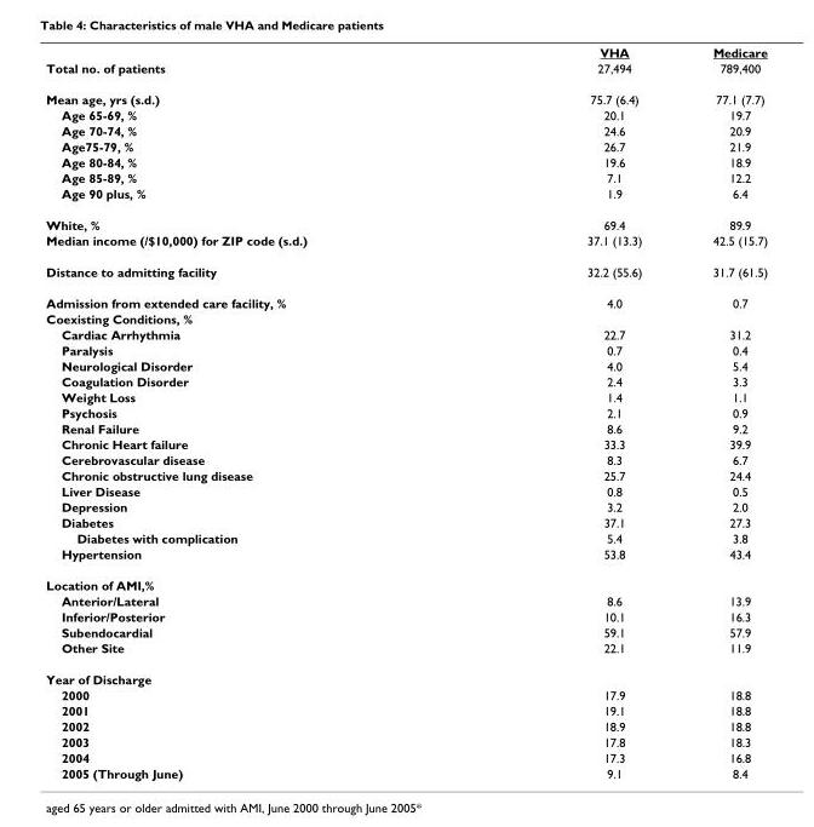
<table><thead><tr><td></td><td>VHA</td><td>Medicare</td></tr></thead><tbody><tr><td>Total no. of patients</td><td>27,494</td><td>789,400</td></tr><tr><td>Mean age, yrs (s.d.)</td><td>75.7 (6.4)</td><td>77.1 (7.7)</td></tr><tr><td>Age 65-69, %</td><td>20.1</td><td>19.7</td></tr><tr><td>Age 70-74, %</td><td>24.6</td><td>20.9</td></tr><tr><td>Age75-79, %</td><td>26.7</td><td>21.9</td></tr><tr><td>Age 80-84, %</td><td>19.6</td><td>18.9</td></tr><tr><td>Age 85-89, %</td><td>7.1</td><td>12.2</td></tr><tr><td>Age 90 plus, %</td><td>1.9</td><td>6.4</td></tr><tr><td>White, %</td><td>69.4</td><td>89.9</td></tr><tr><td>Median income (/$10,000) for ZIP code (s.d.)</td><td>37.1 (13.3)</td><td>42.5 (15.7)</td></tr><tr><td>Distance to admitting facility</td><td>32.2 (55.6)</td><td>31.7 (61.5)</td></tr><tr><td>Admission from extended care facility, %</td><td>4.0</td><td>0.7</td></tr><tr><td colspan="3">Coexisting Conditions, %</td></tr><tr><td>Cardiac Arrhythmia</td><td>22.7</td><td>31.2</td></tr><tr><td>Paralysis</td><td>0.7</td><td>0.4</td></tr><tr><td>Neurological Disorder</td><td>4.0</td><td>5.4</td></tr><tr><td>Coagulation Disorder</td><td>2.4</td><td>3.3</td></tr><tr><td>Weight Loss</td><td>1.4</td><td>1.1</td></tr><tr><td>Psychosis</td><td>2.1</td><td>0.9</td></tr><tr><td>Renal Failure</td><td>8.6</td><td>9.2</td></tr><tr><td>Chronic Heart failure</td><td>33.3</td><td>39.9</td></tr><tr><td>Cerebrovascular disease</td><td>8.3</td><td>6.7</td></tr><tr><td>Chronic obstructive lung disease</td><td>25.7</td><td>24.4</td></tr><tr><td>Liver Disease</td><td>0.8</td><td>0.5</td></tr><tr><td>Depression</td><td>3.2</td><td>2.0</td></tr><tr><td>Diabetes</td><td>37.1</td><td>27.3</td></tr><tr><td>Diabetes with complication</td><td>5.4</td><td>3.8</td></tr><tr><td>Hypertension</td><td>53.8</td><td>43.4</td></tr><tr><td colspan="3">Location of AMI,%</td></tr><tr><td>Anterior/Lateral</td><td>8.6</td><td>13.9</td></tr><tr><td>Inferior/Posterior</td><td>10.1</td><td>16.3</td></tr><tr><td>Subendocardial</td><td>59.1</td><td>57.9</td></tr><tr><td>Other Site</td><td>22.1</td><td>11.9</td></tr><tr><td colspan="3">Year of Discharge</td></tr><tr><td>2000</td><td>17.9</td><td>18.8</td></tr><tr><td>2001</td><td>19.1</td><td>18.8</td></tr><tr><td>2002</td><td>18.9</td><td>18.8</td></tr><tr><td>2003</td><td>17.8</td><td>18.3</td></tr><tr><td>2004</td><td>17.3</td><td>16.8</td></tr><tr><td>2005 (Through June)</td><td>9.1</td><td>8.4</td></tr></tbody></table>